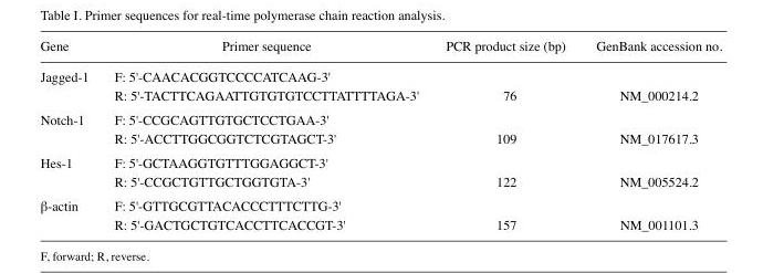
<table><thead><tr><td>Gene</td><td>Primer sequence</td><td>PCR product size (bp)</td><td>GenBank accession no.</td></tr></thead><tbody><tr><td rowspan="2">Jagged-1</td><td>F: 5&#x27;-CAACACGGTCCCCATCAAG-3&#x27;</td><td></td><td></td></tr><tr><td>R: 5&#x27;-TACTTCAGAATTGTGTGTCCTTATTTTAGA-3&#x27;</td><td>76</td><td>NM_000214.2</td></tr><tr><td rowspan="2">Notch-1</td><td>F: 5&#x27;-CCGCAGTTGTGCTCCTGAA-3&#x27;</td><td></td><td></td></tr><tr><td>R: 5&#x27;-ACCTTGGCGGTCTCGTAGCT-3&#x27;</td><td>109</td><td>NM_017617.3</td></tr><tr><td rowspan="2">Hes-1</td><td>F: 5&#x27;-GCTAAGGTGTTTGGAGGCT-3&#x27;</td><td></td><td></td></tr><tr><td>R: 5&#x27;-CCGCTGTTGCTGGTGTA-3&#x27;</td><td>122</td><td>NM_005524.2</td></tr><tr><td rowspan="2">β-actin</td><td>F: 5&#x27;-GTTGCGTTACACCCTTTCTTG-3&#x27;</td><td></td><td></td></tr><tr><td>R: 5&#x27;-GACTGCTGTCACCTTCACCGT-3&#x27;</td><td>157</td><td>NM_001101.3</td></tr></tbody></table>